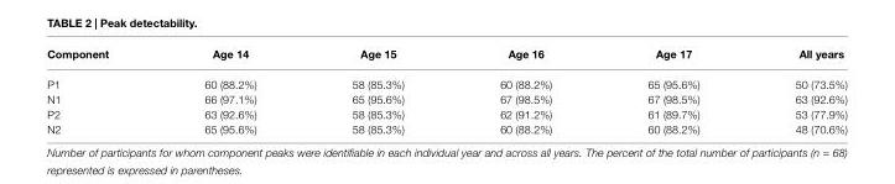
<table><thead><tr><td>Component</td><td>Age 14</td><td>Age 15</td><td>Age 16</td><td>Age 17</td><td>All years</td></tr></thead><tbody><tr><td>P1</td><td>60 (88.2%)</td><td>58 (85.3%)</td><td>60 (88.2%)</td><td>65 (95.6%)</td><td>50 (73.5%)</td></tr><tr><td>N1</td><td>66 (97.1%)</td><td>65 (95.6%)</td><td>67 (98.5%)</td><td>67 (98.5%)</td><td>63 (92.6%)</td></tr><tr><td>P2</td><td>63 (92.6%)</td><td>58 (85.3%)</td><td>62 (91.2%)</td><td>61 (89.7%)</td><td>53 (77.9%)</td></tr><tr><td>N2</td><td>65 (95.6%)</td><td>58 (85.3%)</td><td>60 (88.2%)</td><td>60 (88.2%)</td><td>48 (70.6%)</td></tr></tbody></table>